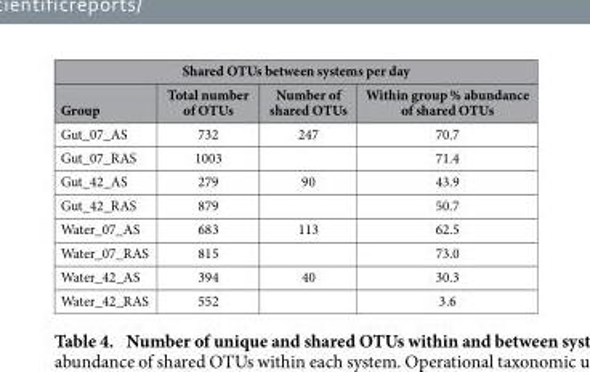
<table><thead><tr><td colspan="4">Shared OTUs between systems per day</td></tr><tr><td>Group</td><td>Total number of OTUs</td><td>Number of shared OTUs</td><td>Within group % abundance of shared OTUs</td></tr></thead><tbody><tr><td>Gut_07_AS</td><td>732</td><td>247</td><td>70.7</td></tr><tr><td>Gut_07_RAS</td><td>1003</td><td></td><td>71.4</td></tr><tr><td>Gut_42_AS</td><td>279</td><td>90</td><td>43.9</td></tr><tr><td>Gut_42_RAS</td><td>879</td><td></td><td>50.7</td></tr><tr><td>Water_07_AS</td><td>683</td><td>113</td><td>62.5</td></tr><tr><td>Water_07_RAS</td><td>815</td><td></td><td>73.0</td></tr><tr><td>Water_42_AS</td><td>394</td><td>40</td><td>30.3</td></tr><tr><td>Water_42_RAS</td><td>552</td><td></td><td>3.6</td></tr></tbody></table>